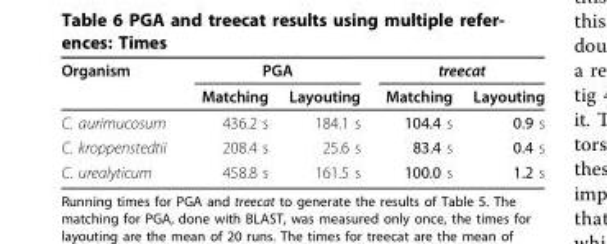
<table><thead><tr><td rowspan="2">Organism</td><td colspan="2">PGA</td><td colspan="2">treecat</td></tr><tr><td>Matching</td><td>Layouting</td><td>Matching</td><td>Layouting</td></tr></thead><tbody><tr><td>C. aurimucosum</td><td>436.2 s</td><td>184.1 s</td><td>104.4 s</td><td>0.9 s</td></tr><tr><td>C. kroppenstedtii</td><td>208.4 s</td><td>25.6 s</td><td>83.4 s</td><td>0.4 s</td></tr><tr><td>C. urealyticum</td><td>458.8 s</td><td>161.5 s</td><td>100.0 s</td><td>1.2 s</td></tr></tbody></table>